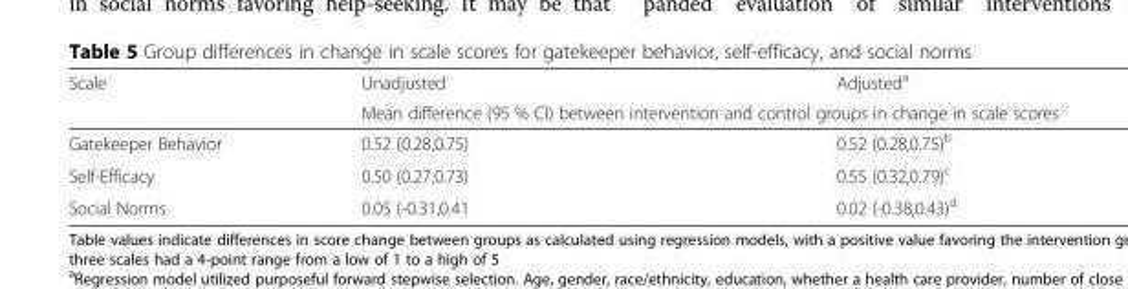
<table><thead><tr><td rowspan="2">Scale</td><td>Unadjusted</td><td>Adjusted<sup>a</sup></td></tr><tr><td colspan="2">Mean difference (95 % CI) between intervention and control groups in change in scale scores</td></tr></thead><tbody><tr><td>Gatekeeper Behavior</td><td>0.52 (0.28,0.75)</td><td>0.52 (0.28,0.75)<sup>b</sup></td></tr><tr><td>Self-Efficacy</td><td>0.50 (0.27,0.73)</td><td>0.55 (0.32,0.79)<sup>c</sup></td></tr><tr><td>Social Norms</td><td>0.05 (-0.31,0.41</td><td>0.02 (-0.38,0.43)<sup>d</sup></td></tr></tbody></table>